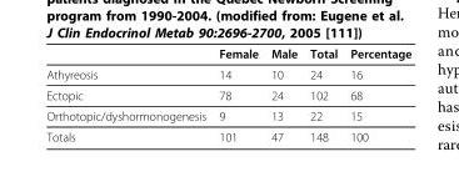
<table><thead><tr><td></td><td>Female</td><td>Male</td><td>Total</td><td>Percentage</td></tr></thead><tbody><tr><td>Athyreosis</td><td>14</td><td>10</td><td>24</td><td>16</td></tr><tr><td>Ectopic</td><td>78</td><td>24</td><td>102</td><td>68</td></tr><tr><td>Orthotopic/dyshormonogenesis</td><td>9</td><td>13</td><td>22</td><td>15</td></tr><tr><td>Totals</td><td>101</td><td>47</td><td>148</td><td>100</td></tr></tbody></table>